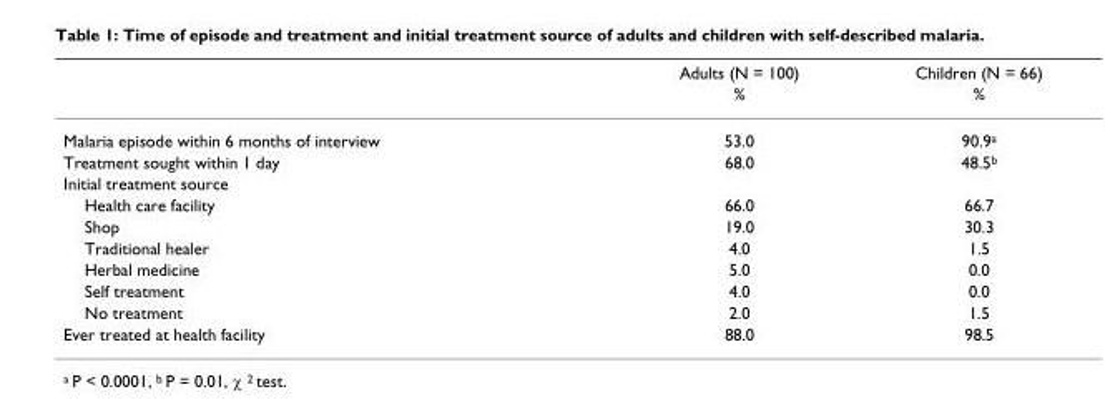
<table><thead><tr><td rowspan="2"></td><td rowspan="2">Adults (N = 100) %</td><td rowspan="2">Children (N = 66) %</td></tr><tr></tr></thead><tbody><tr><td>Malaria episode within 6 months of interview</td><td>53.0</td><td>90.9<sup>a</sup></td></tr><tr><td>Treatment sought within 1 day</td><td>68.0</td><td>48.5<sup>b</sup></td></tr><tr><td colspan="3">Initial treatment source</td></tr><tr><td>Health care facility</td><td>66.0</td><td>66.7</td></tr><tr><td>Shop</td><td>19.0</td><td>30.3</td></tr><tr><td>Traditional healer</td><td>4.0</td><td>1.5</td></tr><tr><td>Herbal medicine</td><td>5.0</td><td>0.0</td></tr><tr><td>Self treatment</td><td>4.0</td><td>0.0</td></tr><tr><td>No treatment</td><td>2.0</td><td>1.5</td></tr><tr><td>Ever treated at health facility</td><td>88.0</td><td>98.5</td></tr></tbody></table>